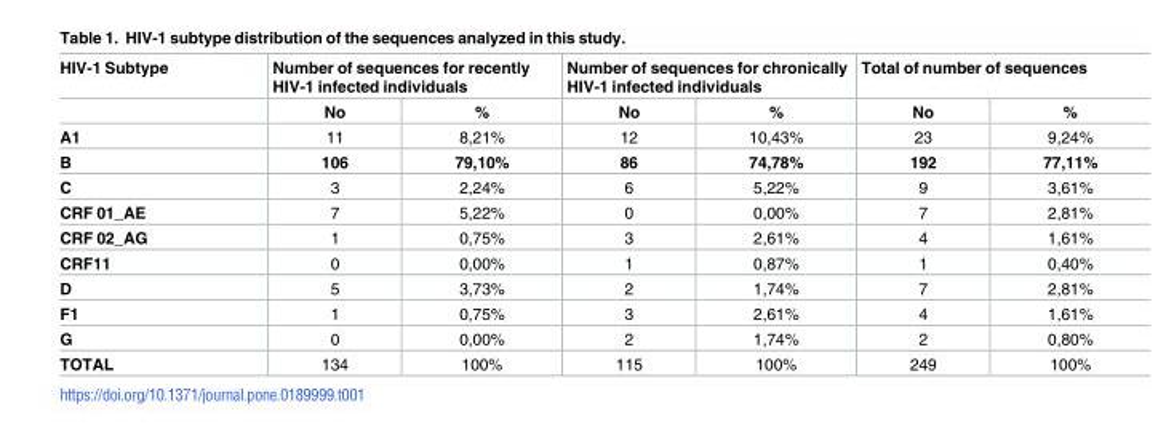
<table><thead><tr><td rowspan="2">HIV-1 Subtype</td><td colspan="2">Number of sequences for recently HIV-1 infected individuals</td><td colspan="2">Number of sequences for chronically HIV-1 infected individuals</td><td colspan="2">Total of number of sequences</td></tr><tr><td>No</td><td>%</td><td>No</td><td>%</td><td>No</td><td>%</td></tr></thead><tbody><tr><td>A1</td><td>11</td><td>8,21%</td><td>12</td><td>10,43%</td><td>23</td><td>9,24%</td></tr><tr><td>B</td><td>106</td><td>79,10%</td><td>86</td><td>74,78%</td><td>192</td><td>77,11%</td></tr><tr><td>C</td><td>3</td><td>2,24%</td><td>6</td><td>5,22%</td><td>9</td><td>3,61%</td></tr><tr><td>CRF 01_AE</td><td>7</td><td>5,22%</td><td>0</td><td>0,00%</td><td>7</td><td>2,81%</td></tr><tr><td>CRF 02_AG</td><td>1</td><td>0,75%</td><td>3</td><td>2,61%</td><td>4</td><td>1,61%</td></tr><tr><td>CRF11</td><td>0</td><td>0,00%</td><td>1</td><td>0,87%</td><td>1</td><td>0,40%</td></tr><tr><td>D</td><td>5</td><td>3,73%</td><td>2</td><td>1,74%</td><td>7</td><td>2,81%</td></tr><tr><td>F1</td><td>1</td><td>0,75%</td><td>3</td><td>2,61%</td><td>4</td><td>1,61%</td></tr><tr><td>G</td><td>0</td><td>0,00%</td><td>2</td><td>1,74%</td><td>2</td><td>0,80%</td></tr><tr><td>TOTAL</td><td>134</td><td>100%</td><td>115</td><td>100%</td><td>249</td><td>100%</td></tr></tbody></table>